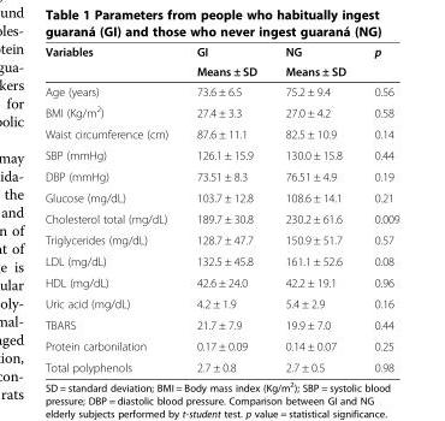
<table><thead><tr><td rowspan="2">Variables</td><td rowspan="2">GI Means ± SD</td><td rowspan="2">NG Means ± SD</td><td rowspan="2">p</td></tr><tr></tr></thead><tbody><tr><td>Age (years)</td><td>73.6 ± 6.5</td><td>75.2 ± 9.4</td><td>0.56</td></tr><tr><td>BMI (Kg/m<sup>2</sup>)</td><td>27.4 ± 3.3</td><td>27.0 ± 4.2</td><td>0.58</td></tr><tr><td>Waist circumference (cm)</td><td>87.6 ± 11.1</td><td>82.5 ± 10.9</td><td>0.14</td></tr><tr><td>SBP (mmHg)</td><td>126.1 ± 15.9</td><td>130.0 ± 15.8</td><td>0.44</td></tr><tr><td>DBP (mmHg)</td><td>73.51 ± 8.3</td><td>76.51 ± 4.9</td><td>0.19</td></tr><tr><td>Glucose (mg/dL)</td><td>103.7 ± 12.8</td><td>108.6 ± 14.1</td><td>0.21</td></tr><tr><td>Cholesterol total (mg/dL)</td><td>189.7 ± 30.8</td><td>230.2 ± 61.6</td><td>0.009</td></tr><tr><td>Triglycerides (mg/dL)</td><td>128.7 ± 47.7</td><td>150.9 ± 51.7</td><td>0.57</td></tr><tr><td>LDL (mg/dL)</td><td>132.5 ± 45.8</td><td>161.1 ± 52.6</td><td>0.08</td></tr><tr><td>HDL (mg/dL)</td><td>42.6 ± 24.0</td><td>42.2 ± 19.1</td><td>0.96</td></tr><tr><td>Uric acid (mg/dL)</td><td>4.2 ± 1.9</td><td>5.4 ± 2.9</td><td>0.16</td></tr><tr><td>TBARS</td><td>21.7 ± 7.9</td><td>19.9 ± 7.0</td><td>0.44</td></tr><tr><td>Protein carbonilation</td><td>0.17 ± 0.09</td><td>0.14 ± 0.07</td><td>0.25</td></tr><tr><td>Total polyphenols</td><td>2.7 ± 0.8</td><td>2.7 ± 0.5</td><td>0.98</td></tr></tbody></table>